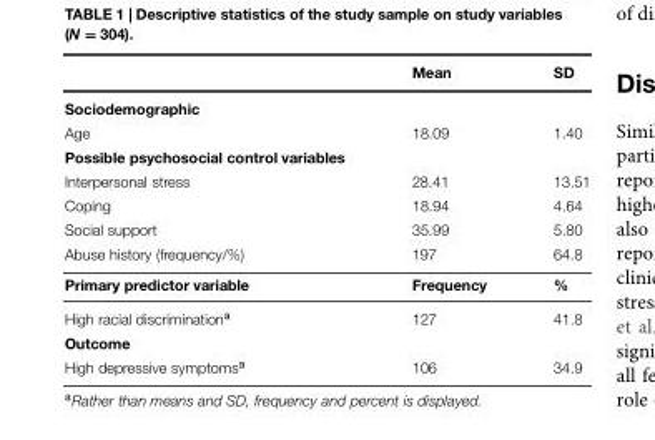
<table><thead><tr><td></td><td>Mean</td><td>SD</td></tr></thead><tbody><tr><td colspan="3">Sociodemographic</td></tr><tr><td>Age</td><td>18.09</td><td>1.40</td></tr><tr><td colspan="3">Possible psychosocial control variables</td></tr><tr><td>Interpersonal stress</td><td>28.41</td><td>13.51</td></tr><tr><td>Coping</td><td>18.94</td><td>4.64</td></tr><tr><td>Social support</td><td>35.99</td><td>5.80</td></tr><tr><td>Abuse history (frequency/%)</td><td>197</td><td>64.8</td></tr><tr><td>Primary predictor variable</td><td>Frequency</td><td>%</td></tr><tr><td>High racial discrimination<sup>a</sup></td><td>127</td><td>41.8</td></tr><tr><td colspan="3">Outcome</td></tr><tr><td>High depressive symptoms<sup>a</sup></td><td>106</td><td>34.9</td></tr></tbody></table>